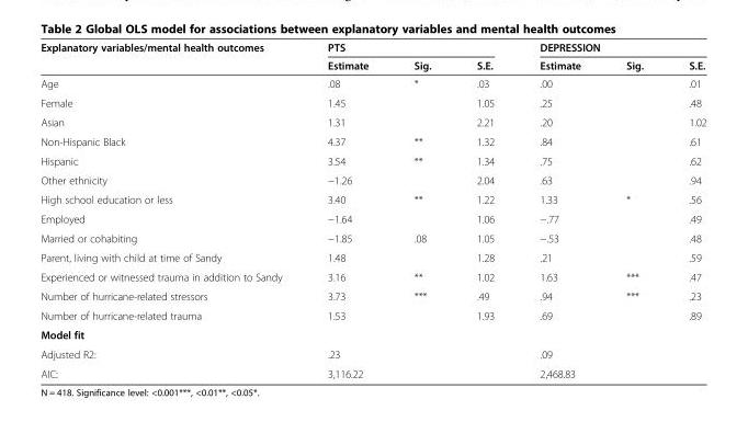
<table><thead><tr><td rowspan="2">Explanatory variables/mental health outcomes</td><td colspan="3">PTS</td><td colspan="3">DEPRESSION</td></tr><tr><td>Estimate</td><td>Sig.</td><td>S.E.</td><td>Estimate</td><td>Sig.</td><td>S.E.</td></tr></thead><tbody><tr><td>Age</td><td>.08</td><td>*</td><td>.03</td><td>.00</td><td></td><td>.01</td></tr><tr><td>Female</td><td>1.45</td><td></td><td>1.05</td><td>.25</td><td></td><td>.48</td></tr><tr><td>Asian</td><td>1.31</td><td></td><td>2.21</td><td>.20</td><td></td><td>1.02</td></tr><tr><td>Non-Hispanic Black</td><td>4.37</td><td>**</td><td>1.32</td><td>.84</td><td></td><td>.61</td></tr><tr><td>Hispanic</td><td>3.54</td><td>**</td><td>1.34</td><td>.75</td><td></td><td>.62</td></tr><tr><td>Other ethnicity</td><td>−1.26</td><td></td><td>2.04</td><td>.63</td><td></td><td>.94</td></tr><tr><td>High school education or less</td><td>3.40</td><td>**</td><td>1.22</td><td>1.33</td><td>*</td><td>.56</td></tr><tr><td>Employed</td><td>−1.64</td><td></td><td>1.06</td><td>−.77</td><td></td><td>.49</td></tr><tr><td>Married or cohabiting</td><td>−1.85</td><td>.08</td><td>1.05</td><td>−.53</td><td></td><td>.48</td></tr><tr><td>Parent, living with child at time of Sandy</td><td>1.48</td><td></td><td>1.28</td><td>.21</td><td></td><td>.59</td></tr><tr><td>Experienced or witnessed trauma in addition to Sandy</td><td>3.16</td><td>**</td><td>1.02</td><td>1.63</td><td>***</td><td>.47</td></tr><tr><td>Number of hurricane-related stressors</td><td>3.73</td><td>***</td><td>.49</td><td>.94</td><td>***</td><td>.23</td></tr><tr><td>Number of hurricane-related trauma</td><td>1.53</td><td></td><td>1.93</td><td>.69</td><td></td><td>.89</td></tr><tr><td colspan="7">Model fit</td></tr><tr><td>Adjusted R2:</td><td>.23</td><td></td><td></td><td>.09</td><td></td><td></td></tr><tr><td>AIC:</td><td>3,116.22</td><td></td><td></td><td>2,468.83</td><td></td><td></td></tr></tbody></table>